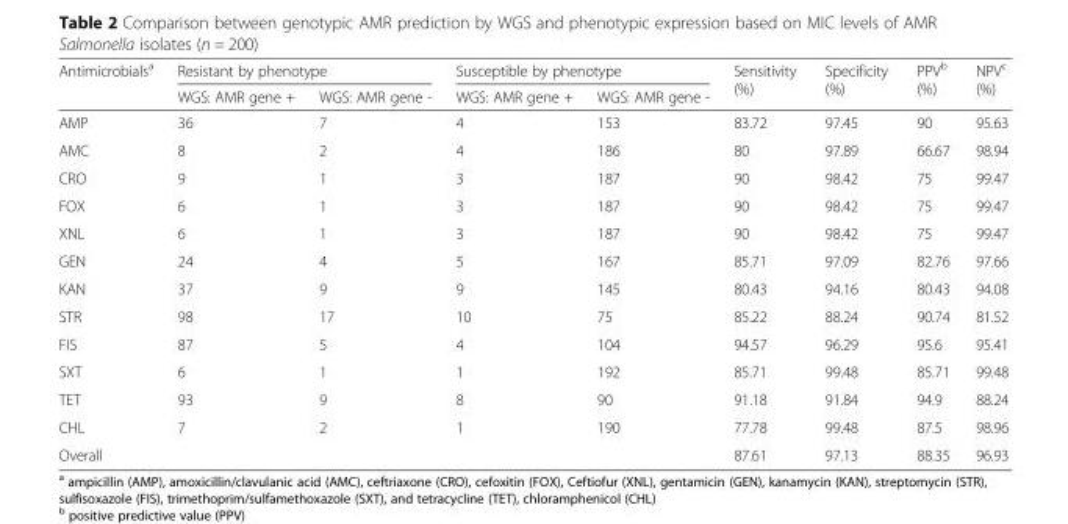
<table><thead><tr><td rowspan="2">Antimicrobials<sup>a</sup></td><td colspan="2">Resistant by phenotype</td><td colspan="2">Susceptible by phenotype</td><td rowspan="2">Sensitivity (%)</td><td rowspan="2">Specificity (%)</td><td rowspan="2">PPV<sup>b</sup> (%)</td><td rowspan="2">NPV<sup>c</sup> (%)</td></tr><tr><td>WGS: AMR gene +</td><td>WGS: AMR gene -</td><td>WGS: AMR gene +</td><td>WGS: AMR gene -</td></tr></thead><tbody><tr><td>AMP</td><td>36</td><td>7</td><td>4</td><td>153</td><td>83.72</td><td>97.45</td><td>90</td><td>95.63</td></tr><tr><td>AMC</td><td>8</td><td>2</td><td>4</td><td>186</td><td>80</td><td>97.89</td><td>66.67</td><td>98.94</td></tr><tr><td>CRO</td><td>9</td><td>1</td><td>3</td><td>187</td><td>90</td><td>98.42</td><td>75</td><td>99.47</td></tr><tr><td>FOX</td><td>6</td><td>1</td><td>3</td><td>187</td><td>90</td><td>98.42</td><td>75</td><td>99.47</td></tr><tr><td>XNL</td><td>6</td><td>1</td><td>3</td><td>187</td><td>90</td><td>98.42</td><td>75</td><td>99.47</td></tr><tr><td>GEN</td><td>24</td><td>4</td><td>5</td><td>167</td><td>85.71</td><td>97.09</td><td>82.76</td><td>97.66</td></tr><tr><td>KAN</td><td>37</td><td>9</td><td>9</td><td>145</td><td>80.43</td><td>94.16</td><td>80.43</td><td>94.08</td></tr><tr><td>STR</td><td>98</td><td>17</td><td>10</td><td>75</td><td>85.22</td><td>88.24</td><td>90.74</td><td>81.52</td></tr><tr><td>FIS</td><td>87</td><td>5</td><td>4</td><td>104</td><td>94.57</td><td>96.29</td><td>95.6</td><td>95.41</td></tr><tr><td>SXT</td><td>6</td><td>1</td><td>1</td><td>192</td><td>85.71</td><td>99.48</td><td>85.71</td><td>99.48</td></tr><tr><td>TET</td><td>93</td><td>9</td><td>8</td><td>90</td><td>91.18</td><td>91.84</td><td>94.9</td><td>88.24</td></tr><tr><td>CHL</td><td>7</td><td>2</td><td>1</td><td>190</td><td>77.78</td><td>99.48</td><td>87.5</td><td>98.96</td></tr><tr><td>Overall</td><td></td><td></td><td></td><td></td><td>87.61</td><td>97.13</td><td>88.35</td><td>96.93</td></tr></tbody></table>